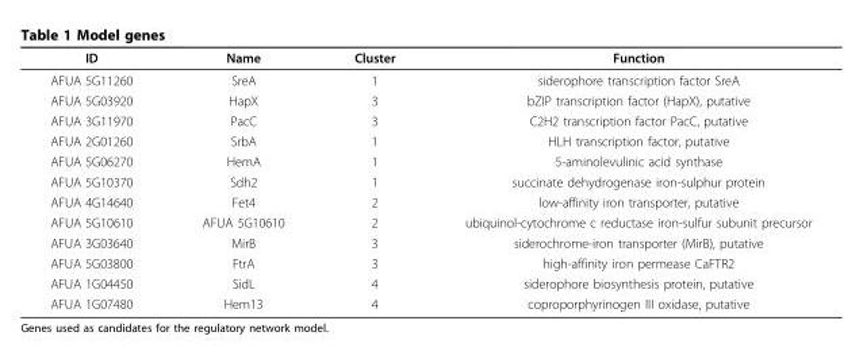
<table><thead><tr><td>ID</td><td>Name</td><td>Cluster</td><td>Function</td></tr></thead><tbody><tr><td>AFUA 5G11260</td><td>SreA</td><td>1</td><td>siderophore transcription factor SreA</td></tr><tr><td>AFUA 5G03920</td><td>HapX</td><td>3</td><td>bZIP transcription factor (HapX), putative</td></tr><tr><td>AFUA 3G11970</td><td>PacC</td><td>3</td><td>C2H2 transcription factor PacC, putative</td></tr><tr><td>AFUA 2G01260</td><td>SrbA</td><td>1</td><td>HLH transcription factor, putative</td></tr><tr><td>AFUA 5G06270</td><td>HemA</td><td>1</td><td>5-aminolevulinic acid synthase</td></tr><tr><td>AFUA 5G10370</td><td>Sdh2</td><td>1</td><td>succinate dehydrogenase iron-sulphur protein</td></tr><tr><td>AFUA 4G14640</td><td>Fet4</td><td>2</td><td>low-affinity iron transporter, putative</td></tr><tr><td>AFUA 5G10610</td><td>AFUA 5G10610</td><td>2</td><td>ubiquinol-cytochrome c reductase iron-sulfur subunit precursor</td></tr><tr><td>AFUA 3G03640</td><td>MirB</td><td>3</td><td>siderochrome-iron transporter (MirB), putative</td></tr><tr><td>AFUA 5G03800</td><td>FtrA</td><td>3</td><td>high-affinity iron permease CaFTR2</td></tr><tr><td>AFUA 1G04450</td><td>SidL</td><td>4</td><td>siderophore biosynthesis protein, putative</td></tr><tr><td>AFUA 1G07480</td><td>Hem13</td><td>4</td><td>coproporphyrinogen III oxidase, putative</td></tr></tbody></table>